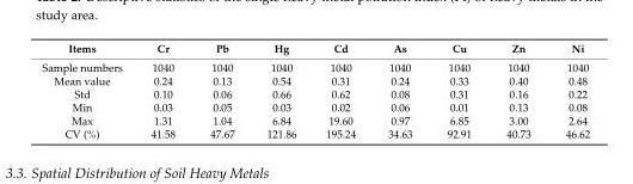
<table><thead><tr><td>Items</td><td>Cr</td><td>Pb</td><td>Hg</td><td>Cd</td><td>As</td><td>Cu</td><td>Zn</td><td>Ni</td></tr></thead><tbody><tr><td>Sample numbers</td><td>1040</td><td>1040</td><td>1040</td><td>1040</td><td>1040</td><td>1040</td><td>1040</td><td>1040</td></tr><tr><td>Mean value</td><td>0.24</td><td>0.13</td><td>0.54</td><td>0.31</td><td>0.24</td><td>0.33</td><td>0.40</td><td>0.48</td></tr><tr><td>Std</td><td>0.10</td><td>0.06</td><td>0.66</td><td>0.62</td><td>0.08</td><td>0.31</td><td>0.16</td><td>0.22</td></tr><tr><td>Min</td><td>0.03</td><td>0.05</td><td>0.03</td><td>0.02</td><td>0.06</td><td>0.01</td><td>0.13</td><td>0.08</td></tr><tr><td>Max</td><td>1.31</td><td>1.04</td><td>6.84</td><td>19.60</td><td>0.97</td><td>6.85</td><td>3.00</td><td>2.64</td></tr><tr><td>CV (%)</td><td>41.58</td><td>47.67</td><td>121.86</td><td>195.24</td><td>34.63</td><td>92.91</td><td>40.73</td><td>46.62</td></tr></tbody></table>